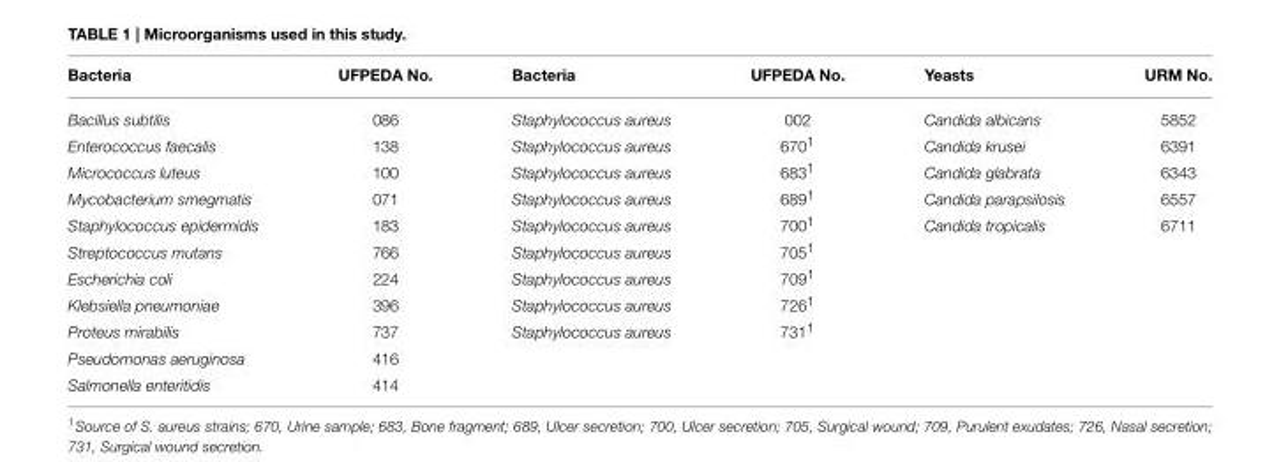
<table><thead><tr><td>Bacteria</td><td>UFPEDA No.</td><td>Bacteria</td><td>UFPEDA No.</td><td>Yeasts</td><td>URM No.</td></tr></thead><tbody><tr><td>Bacillus subtilis</td><td>086</td><td>Staphylococcus aureus</td><td>002</td><td>Candida albicans</td><td>5852</td></tr><tr><td>Enterococcus faecalis</td><td>138</td><td>Staphylococcus aureus</td><td>670<sup>1</sup></td><td>Candida krusei</td><td>6391</td></tr><tr><td>Micrococcus luteus</td><td>100</td><td>Staphylococcus aureus</td><td>683<sup>1</sup></td><td>Candida glabrata</td><td>6343</td></tr><tr><td>Mycobacterium smegmatis</td><td>071</td><td>Staphylococcus aureus</td><td>689<sup>1</sup></td><td>Candida parapsilosis</td><td>6557</td></tr><tr><td>Staphylococcus epidermidis</td><td>183</td><td>Staphylococcus aureus</td><td>700<sup>1</sup></td><td>Candida tropicalis</td><td>6711</td></tr><tr><td>Streptococcus mutans</td><td>766</td><td>Staphylococcus aureus</td><td>705<sup>1</sup></td><td></td><td></td></tr><tr><td>Escherichia coli</td><td>224</td><td>Staphylococcus aureus</td><td>709<sup>1</sup></td><td></td><td></td></tr><tr><td>Klebsiella pneumoniae</td><td>396</td><td>Staphylococcus aureus</td><td>726<sup>1</sup></td><td></td><td></td></tr><tr><td>Proteus mirabilis</td><td>737</td><td>Staphylococcus aureus</td><td>731<sup>1</sup></td><td></td><td></td></tr><tr><td>Pseudomonas aeruginosa</td><td>416</td><td></td><td></td><td></td><td></td></tr><tr><td>Salmonella enteritidis</td><td>414</td><td></td><td></td><td></td><td></td></tr></tbody></table>